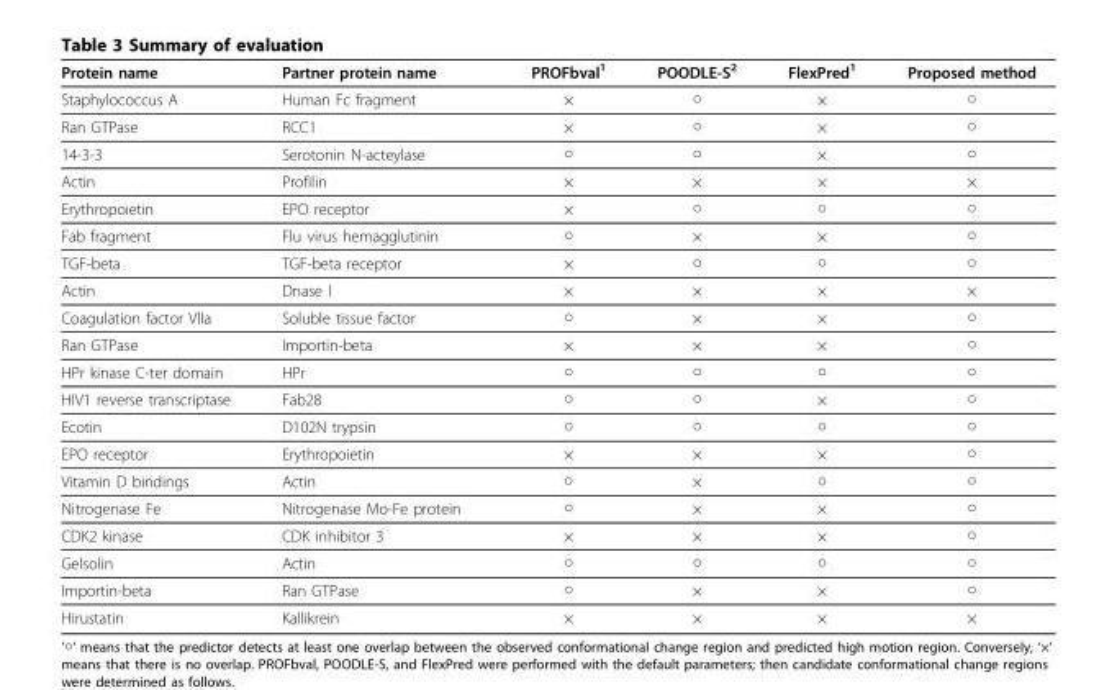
<table><thead><tr><td>Protein name</td><td>Partner protein name</td><td>PROFbval<sup>1</sup></td><td>POODLE-S<sup>2</sup></td><td>FlexPred<sup>1</sup></td><td>Proposed method</td></tr></thead><tbody><tr><td>Staphylococcus A</td><td>Human Fc fragment</td><td>×</td><td>○</td><td>×</td><td>○</td></tr><tr><td>Ran GTPase</td><td>RCC1</td><td>×</td><td>○</td><td>×</td><td>○</td></tr><tr><td>14-3-3</td><td>Serotonin N-acteylase</td><td>○</td><td>○</td><td>×</td><td>○</td></tr><tr><td>Actin</td><td>Profilin</td><td>×</td><td>×</td><td>×</td><td>×</td></tr><tr><td>Erythropoietin</td><td>EPO receptor</td><td>×</td><td>○</td><td>○</td><td>○</td></tr><tr><td>Fab fragment</td><td>Flu virus hemagglutinin</td><td>○</td><td>×</td><td>×</td><td>○</td></tr><tr><td>TGF-beta</td><td>TGF-beta receptor</td><td>×</td><td>○</td><td>○</td><td>○</td></tr><tr><td>Actin</td><td>Dnase I</td><td>×</td><td>×</td><td>×</td><td>×</td></tr><tr><td>Coagulation factor Vlla</td><td>Soluble tissue factor</td><td>○</td><td>×</td><td>×</td><td>○</td></tr><tr><td>Ran GTPase</td><td>Importin-beta</td><td>×</td><td>×</td><td>×</td><td>○</td></tr><tr><td>HPr kinase C-ter domain</td><td>HPr</td><td>○</td><td>○</td><td>○</td><td>○</td></tr><tr><td>HIV1 reverse transcriptase</td><td>Fab28</td><td>○</td><td>○</td><td>×</td><td>○</td></tr><tr><td>Ecotin</td><td>D102N trypsin</td><td>○</td><td>○</td><td>○</td><td>○</td></tr><tr><td>EPO receptor</td><td>Erythropoietin</td><td>×</td><td>×</td><td>×</td><td>○</td></tr><tr><td>Vitamin D bindings</td><td>Actin</td><td>○</td><td>×</td><td>○</td><td>○</td></tr><tr><td>Nitrogenase Fe</td><td>Nitrogenase Mo-Fe protein</td><td>○</td><td>×</td><td>×</td><td>○</td></tr><tr><td>CDK2 kinase</td><td>CDK inhibitor 3</td><td>×</td><td>×</td><td>×</td><td>○</td></tr><tr><td>Gelsolin</td><td>Actin</td><td>○</td><td>○</td><td>○</td><td>○</td></tr><tr><td>Importin-beta</td><td>Ran GTPase</td><td>○</td><td>×</td><td>×</td><td>○</td></tr><tr><td>Hirustatin</td><td>Kallikrein</td><td>×</td><td>×</td><td>×</td><td>×</td></tr></tbody></table>